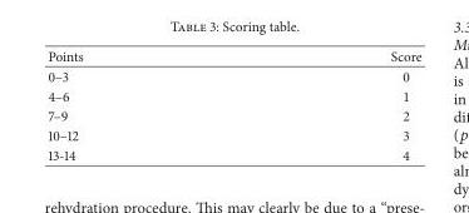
<table><thead><tr><td>Points</td><td>Score</td></tr></thead><tbody><tr><td>0–3</td><td>0</td></tr><tr><td>4–6</td><td>1</td></tr><tr><td>7–9</td><td>2</td></tr><tr><td>10–12</td><td>3</td></tr><tr><td>13-14</td><td>4</td></tr></tbody></table>